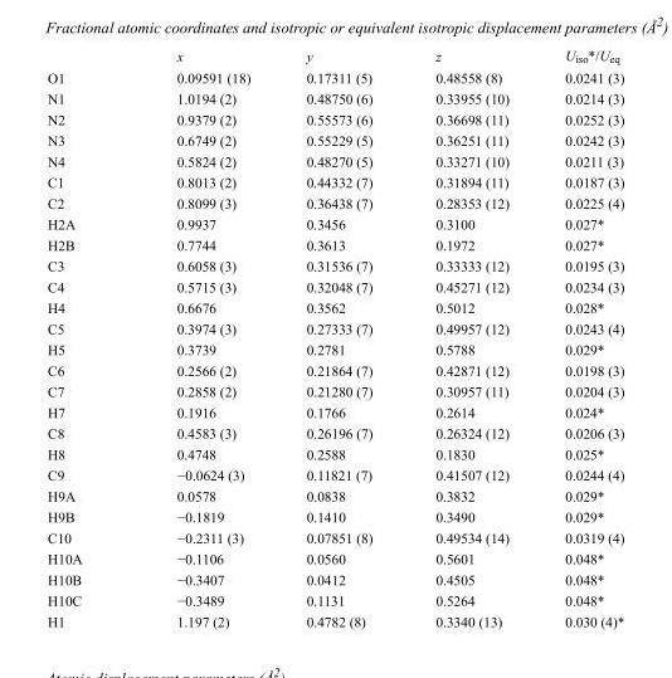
<table><thead><tr><td></td><td>x</td><td>y</td><td>z</td><td>U<sub>iso</sub>*/U<sub>eq</sub></td></tr></thead><tbody><tr><td>O1</td><td>0.09591 (18)</td><td>0.17311 (5)</td><td>0.48558 (8)</td><td>0.0241 (3)</td></tr><tr><td>N1</td><td>1.0194 (2)</td><td>0.48750 (6)</td><td>0.33955 (10)</td><td>0.0214 (3)</td></tr><tr><td>N2</td><td>0.9379 (2)</td><td>0.55573 (6)</td><td>0.36698 (11)</td><td>0.0252 (3)</td></tr><tr><td>N3</td><td>0.6749 (2)</td><td>0.55229 (5)</td><td>0.36251 (11)</td><td>0.0242 (3)</td></tr><tr><td>N4</td><td>0.5824 (2)</td><td>0.48270 (5)</td><td>0.33271 (10)</td><td>0.0211 (3)</td></tr><tr><td>C1</td><td>0.8013 (2)</td><td>0.44332 (7)</td><td>0.31894 (11)</td><td>0.0187 (3)</td></tr><tr><td>C2</td><td>0.8099 (3)</td><td>0.36438 (7)</td><td>0.28353 (12)</td><td>0.0225 (4)</td></tr><tr><td>H2A</td><td>0.9937</td><td>0.3456</td><td>0.3100</td><td>0.027*</td></tr><tr><td>H2B</td><td>0.7744</td><td>0.3613</td><td>0.1972</td><td>0.027*</td></tr><tr><td>C3</td><td>0.6058 (3)</td><td>0.31536 (7)</td><td>0.33333 (12)</td><td>0.0195 (3)</td></tr><tr><td>C4</td><td>0.5715 (3)</td><td>0.32048 (7)</td><td>0.45271 (12)</td><td>0.0234 (3)</td></tr><tr><td>H4</td><td>0.6676</td><td>0.3562</td><td>0.5012</td><td>0.028*</td></tr><tr><td>C5</td><td>0.3974 (3)</td><td>0.27333 (7)</td><td>0.49957 (12)</td><td>0.0243 (4)</td></tr><tr><td>H5</td><td>0.3739</td><td>0.2781</td><td>0.5788</td><td>0.029*</td></tr><tr><td>C6</td><td>0.2566 (2)</td><td>0.21864 (7)</td><td>0.42871 (12)</td><td>0.0198 (3)</td></tr><tr><td>C7</td><td>0.2858 (2)</td><td>0.21280 (7)</td><td>0.30957 (11)</td><td>0.0204 (3)</td></tr><tr><td>H7</td><td>0.1916</td><td>0.1766</td><td>0.2614</td><td>0.024*</td></tr><tr><td>C8</td><td>0.4583 (3)</td><td>0.26196 (7)</td><td>0.26324 (12)</td><td>0.0206 (3)</td></tr><tr><td>H8</td><td>0.4748</td><td>0.2588</td><td>0.1830</td><td>0.025*</td></tr><tr><td>C9</td><td>−0.0624 (3)</td><td>0.11821 (7)</td><td>0.41507 (12)</td><td>0.0244 (4)</td></tr><tr><td>H9A</td><td>0.0578</td><td>0.0838</td><td>0.3832</td><td>0.029*</td></tr><tr><td>H9B</td><td>−0.1819</td><td>0.1410</td><td>0.3490</td><td>0.029*</td></tr><tr><td>C10</td><td>−0.2311 (3)</td><td>0.07851 (8)</td><td>0.49534 (14)</td><td>0.0319 (4)</td></tr><tr><td>H10A</td><td>−0.1106</td><td>0.0560</td><td>0.5601</td><td>0.048*</td></tr><tr><td>H10B</td><td>−0.3407</td><td>0.0412</td><td>0.4505</td><td>0.048*</td></tr><tr><td>H10C</td><td>−0.3489</td><td>0.1131</td><td>0.5264</td><td>0.048*</td></tr><tr><td>H1</td><td>1.197 (2)</td><td>0.4782 (8)</td><td>0.3340 (13)</td><td>0.030 (4)*</td></tr></tbody></table>